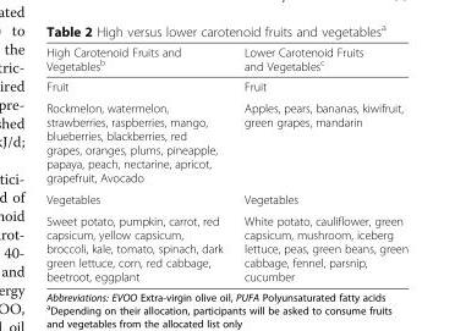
<table><thead><tr><td>High Carotenoid Fruits and Vegetables<sup>b</sup></td><td>Lower Carotenoid Fruits and Vegetables<sup>c</sup></td></tr></thead><tbody><tr><td>Fruit</td><td>Fruit</td></tr><tr><td>Rockmelon, watermelon, strawberries, raspberries, mango, blueberries, blackberries, red grapes, oranges, plums, pineapple, papaya, peach, nectarine, apricot, grapefruit, Avocado</td><td>Apples, pears, bananas, kiwifruit, green grapes, mandarin</td></tr><tr><td>Vegetables</td><td>Vegetables</td></tr><tr><td>Sweet potato, pumpkin, carrot, red capsicum, yellow capsicum, broccoli, kale, tomato, spinach, dark green lettuce, corn, red cabbage, beetroot, eggplant</td><td>White potato, cauliflower, green capsicum, mushroom, iceberg lettuce, peas, green beans, green cabbage, fennel, parsnip, cucumber</td></tr></tbody></table>